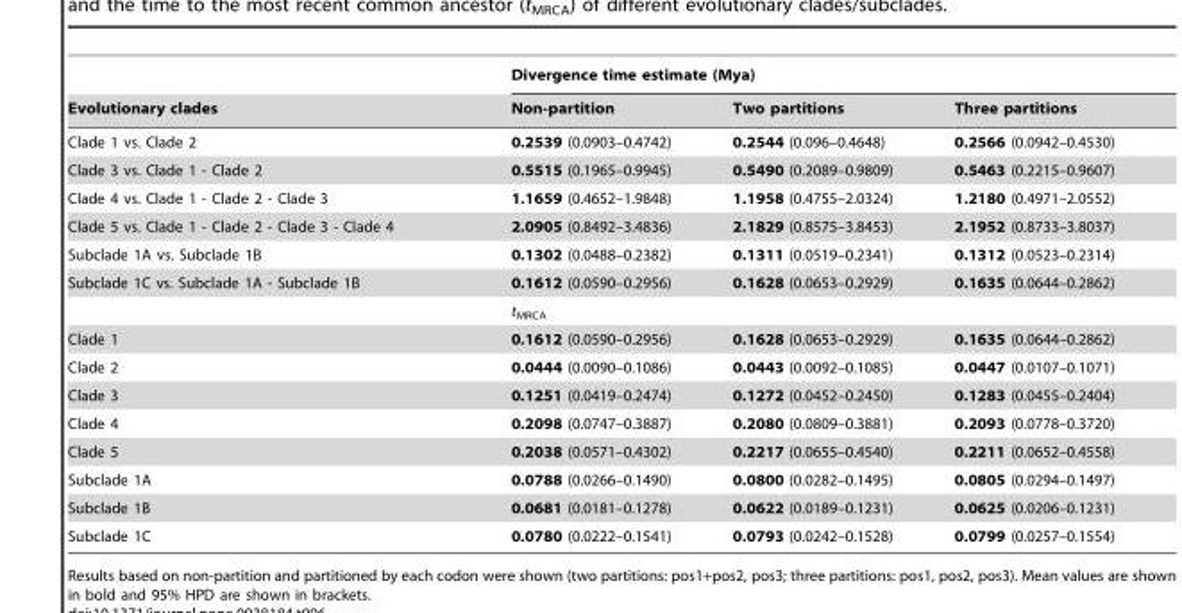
<table><thead><tr><td rowspan="2">Evolutionary clades</td><td colspan="3">Divergence time estimate (Mya)</td></tr><tr><td>Non-partition</td><td>Two partitions</td><td>Three partitions</td></tr></thead><tbody><tr><td>Clade 1 vs. Clade 2</td><td>0.2539 (0.0903–0.4742)</td><td>0.2544 (0.096–0.4648)</td><td>0.2566 (0.0942–0.4530)</td></tr><tr><td>Clade 3 vs. Clade 1 - Clade 2</td><td>0.5515 (0.1965–0.9945)</td><td>0.5490 (0.2089–0.9809)</td><td>0.5463 (0.2215–0.9607)</td></tr><tr><td>Clade 4 vs. Clade 1 - Clade 2 - Clade 3</td><td>1.1659 (0.4652–1.9848)</td><td>1.1958 (0.4755–2.0324)</td><td>1.2180 (0.4971–2.0552)</td></tr><tr><td>Clade 5 vs. Clade 1 - Clade 2 - Clade 3 - Clade 4</td><td>2.0905 (0.8492–3.4836)</td><td>2.1829 (0.8575–3.8453)</td><td>2.1952 (0.8733–3.8037)</td></tr><tr><td>Subclade 1A vs. Subclade 1B</td><td>0.1302 (0.0488–0.2382)</td><td>0.1311 (0.0519–0.2341)</td><td>0.1312 (0.0523–0.2314)</td></tr><tr><td rowspan="2">Subclade 1C vs. Subclade 1A - Subclade 1B</td><td>0.1612 (0.0590–0.2956)</td><td>0.1628 (0.0653–0.2929)</td><td>0.1635 (0.0644–0.2862)</td></tr><tr><td colspan="3">t<sub>MRCA</sub></td></tr><tr><td>Clade 1</td><td>0.1612 (0.0590–0.2956)</td><td>0.1628 (0.0653–0.2929)</td><td>0.1635 (0.0644–0.2862)</td></tr><tr><td>Clade 2</td><td>0.0444 (0.0090–0.1086)</td><td>0.0443 (0.0092–0.1085)</td><td>0.0447 (0.0107–0.1071)</td></tr><tr><td>Clade 3</td><td>0.1251 (0.0419–0.2474)</td><td>0.1272 (0.0452–0.2450)</td><td>0.1283 (0.0455–0.2404)</td></tr><tr><td>Clade 4</td><td>0.2098 (0.0747–0.3887)</td><td>0.2080 (0.0809–0.3881)</td><td>0.2093 (0.0778–0.3720)</td></tr><tr><td>Clade 5</td><td>0.2038 (0.0571–0.4302)</td><td>0.2217 (0.0655–0.4540)</td><td>0.2211 (0.0652–0.4558)</td></tr><tr><td>Subclade 1A</td><td>0.0788 (0.0266–0.1490)</td><td>0.0800 (0.0282–0.1495)</td><td>0.0805 (0.0294–0.1497)</td></tr><tr><td>Subclade 1B</td><td>0.0681 (0.0181–0.1278)</td><td>0.0622 (0.0189–0.1231)</td><td>0.0625 (0.0206–0.1231)</td></tr><tr><td>Subclade 1C</td><td>0.0780 (0.0222–0.1541)</td><td>0.0793 (0.0242–0.1528)</td><td>0.0799 (0.0257–0.1554)</td></tr></tbody></table>